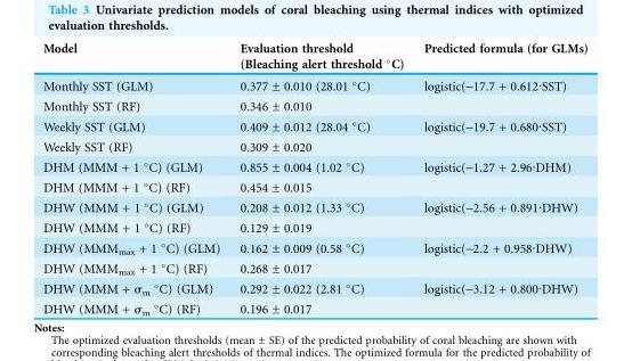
<table><thead><tr><td>Model</td><td>Evaluation threshold (Bleaching alert threshold °C)</td><td>Predicted formula (for GLMs)</td></tr></thead><tbody><tr><td>Monthly SST (GLM)</td><td>0.377 ± 0.010 (28.01 °C)</td><td>logistic(-17.7 + 0.612·SST)</td></tr><tr><td>Monthly SST (RF)</td><td>0.346 ± 0.010</td><td></td></tr><tr><td>Weekly SST (GLM)</td><td>0.409 ± 0.012 (28.04 °C)</td><td>logistic(-19.7 + 0.680·SST)</td></tr><tr><td>Weekly SST (RF)</td><td>0.309 ± 0.020</td><td></td></tr><tr><td>DHM (MMM + 1 °C) (GLM)</td><td>0.855 ± 0.004 (1.02 °C)</td><td>logistic(-1.27 + 2.96·DHM)</td></tr><tr><td>DHM (MMM + 1 °C) (RF)</td><td>0.454 ± 0.015</td><td></td></tr><tr><td>DHW (MMM + 1 °C) (GLM)</td><td>0.208 ± 0.012 (1.33 °C)</td><td>logistic(-2.56 + 0.891·DHW)</td></tr><tr><td>DHW (MMM + 1 °C) (RF)</td><td>0.129 ± 0.019</td><td></td></tr><tr><td>DHW (MMM<sub>max</sub> + 1 °C) (GLM)</td><td>0.162 ± 0.009 (0.58 °C)</td><td>logistic(-2.2 + 0.958·DHW)</td></tr><tr><td>DHW (MMM<sub>max</sub> + 1 °C) (RF)</td><td>0.268 ± 0.017</td><td></td></tr><tr><td>DHW (MMM + σ<sub>m</sub> °C) (GLM)</td><td>0.292 ± 0.022 (2.81 °C)</td><td>logistic(-3.12 + 0.800·DHW)</td></tr><tr><td>DHW (MMM + σ<sub>m</sub> °C) (RF)</td><td>0.196 ± 0.017</td><td></td></tr></tbody></table>